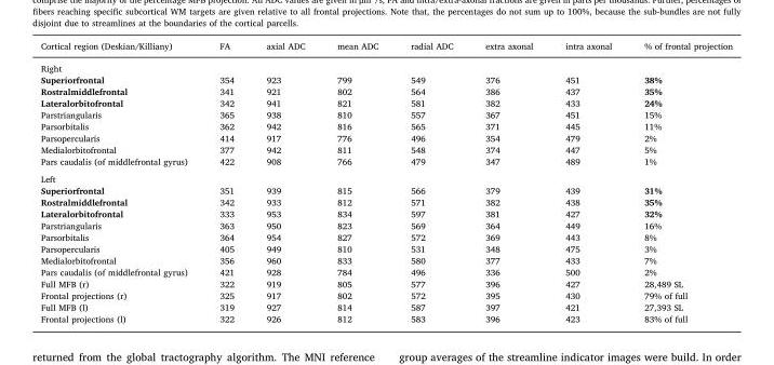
<table><thead><tr><td>Cortical region (Deskian/Killiany)</td><td>FA</td><td>axial ADC</td><td>mean ADC</td><td>radial ADC</td><td>extra axonal</td><td>intra axonal</td><td>% of frontal projection</td></tr></thead><tbody><tr><td colspan="8">Right</td></tr><tr><td>Superiorfrontal</td><td>354</td><td>923</td><td>799</td><td>549</td><td>376</td><td>451</td><td>38%</td></tr><tr><td>Rostralmiddlefrontal</td><td>341</td><td>921</td><td>802</td><td>564</td><td>386</td><td>437</td><td>35%</td></tr><tr><td>Lateralorbitofrontal</td><td>342</td><td>941</td><td>821</td><td>581</td><td>382</td><td>433</td><td>24%</td></tr><tr><td>Parstriangularis</td><td>365</td><td>938</td><td>810</td><td>557</td><td>367</td><td>451</td><td>15%</td></tr><tr><td>Parsorbitalis</td><td>362</td><td>942</td><td>816</td><td>565</td><td>371</td><td>445</td><td>11%</td></tr><tr><td>Parsopercularis</td><td>414</td><td>917</td><td>776</td><td>496</td><td>354</td><td>479</td><td>2%</td></tr><tr><td>Medialorbitofrontal</td><td>377</td><td>942</td><td>811</td><td>548</td><td>374</td><td>447</td><td>5%</td></tr><tr><td>Pars caudalis (of middlefrontal gyrus)</td><td>422</td><td>908</td><td>766</td><td>479</td><td>347</td><td>489</td><td>1%</td></tr><tr><td colspan="8">Left</td></tr><tr><td>Superiorfrontal</td><td>351</td><td>939</td><td>815</td><td>566</td><td>379</td><td>439</td><td>31%</td></tr><tr><td>Rostralmiddlefrontal</td><td>342</td><td>933</td><td>812</td><td>571</td><td>382</td><td>438</td><td>35%</td></tr><tr><td>Lateralorbitofrontal</td><td>333</td><td>953</td><td>834</td><td>597</td><td>381</td><td>427</td><td>32%</td></tr><tr><td>Parstriangularis</td><td>363</td><td>950</td><td>823</td><td>569</td><td>364</td><td>449</td><td>16%</td></tr><tr><td>Parsorbitalis</td><td>364</td><td>954</td><td>827</td><td>572</td><td>369</td><td>443</td><td>8%</td></tr><tr><td>Parsopercularis</td><td>405</td><td>949</td><td>810</td><td>531</td><td>348</td><td>475</td><td>3%</td></tr><tr><td>Medialorbitofrontal</td><td>356</td><td>960</td><td>833</td><td>580</td><td>377</td><td>433</td><td>7%</td></tr><tr><td>Pars caudalis (of middlefrontal gyrus)</td><td>421</td><td>928</td><td>784</td><td>496</td><td>336</td><td>500</td><td>2%</td></tr><tr><td>Full MFB (r)</td><td>322</td><td>919</td><td>805</td><td>577</td><td>396</td><td>427</td><td>28,489 SL</td></tr><tr><td>Frontal projections (r)</td><td>325</td><td>917</td><td>802</td><td>572</td><td>395</td><td>430</td><td>79% of full</td></tr><tr><td>Full MFB (l)</td><td>319</td><td>927</td><td>814</td><td>587</td><td>397</td><td>421</td><td>27,393 SL</td></tr><tr><td>Frontal projections (l)</td><td>322</td><td>926</td><td>812</td><td>583</td><td>396</td><td>423</td><td>83% of full</td></tr></tbody></table>